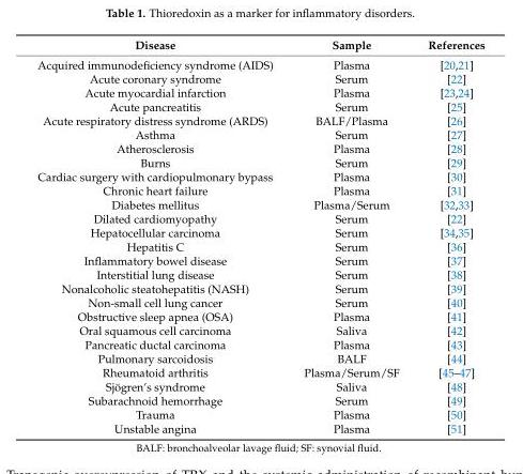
<table><thead><tr><td>Disease</td><td>Sample</td><td>References</td></tr></thead><tbody><tr><td>Acquired immunodeficiency syndrome (AIDS)</td><td>Plasma</td><td>[20,21]</td></tr><tr><td>Acute coronary syndrome</td><td>Serum</td><td>[22]</td></tr><tr><td>Acute myocardial infarction</td><td>Plasma</td><td>[23,24]</td></tr><tr><td>Acute pancreatitis</td><td>Serum</td><td>[25]</td></tr><tr><td>Acute respiratory distress syndrome (ARDS)</td><td>BALF/Plasma</td><td>[26]</td></tr><tr><td>Asthma</td><td>Serum</td><td>[27]</td></tr><tr><td>Atherosclerosis</td><td>Plasma</td><td>[28]</td></tr><tr><td>Burns</td><td>Serum</td><td>[29]</td></tr><tr><td>Cardiac surgery with cardiopulmonary bypass</td><td>Plasma</td><td>[30]</td></tr><tr><td>Chronic heart failure</td><td>Plasma</td><td>[31]</td></tr><tr><td>Diabetes mellitus</td><td>Plasma/Serum</td><td>[32,33]</td></tr><tr><td>Dilated cardiomyopathy</td><td>Serum</td><td>[22]</td></tr><tr><td>Hepatocellular carcinoma</td><td>Serum</td><td>[34,35]</td></tr><tr><td>Hepatitis C</td><td>Serum</td><td>[36]</td></tr><tr><td>Inflammatory bowel disease</td><td>Serum</td><td>[37]</td></tr><tr><td>Interstitial lung disease</td><td>Serum</td><td>[38]</td></tr><tr><td>Nonalcoholic steatohepatitis (NASH)</td><td>Serum</td><td>[39]</td></tr><tr><td>Non-small cell lung cancer</td><td>Serum</td><td>[40]</td></tr><tr><td>Obstructive sleep apnea (OSA)</td><td>Plasma</td><td>[41]</td></tr><tr><td>Oral squamous cell carcinoma</td><td>Saliva</td><td>[42]</td></tr><tr><td>Pancreatic ductal carcinoma</td><td>Plasma</td><td>[43]</td></tr><tr><td>Pulmonary sarcoidosis</td><td>BALF</td><td>[44]</td></tr><tr><td>Rheumatoid arthritis</td><td>Plasma/Serum/SF</td><td>[45–47]</td></tr><tr><td>Sjögren’s syndrome</td><td>Saliva</td><td>[48]</td></tr><tr><td>Subarachnoid hemorrhage</td><td>Serum</td><td>[49]</td></tr><tr><td>Trauma</td><td>Plasma</td><td>[50]</td></tr><tr><td>Unstable angina</td><td>Plasma</td><td>[51]</td></tr></tbody></table>